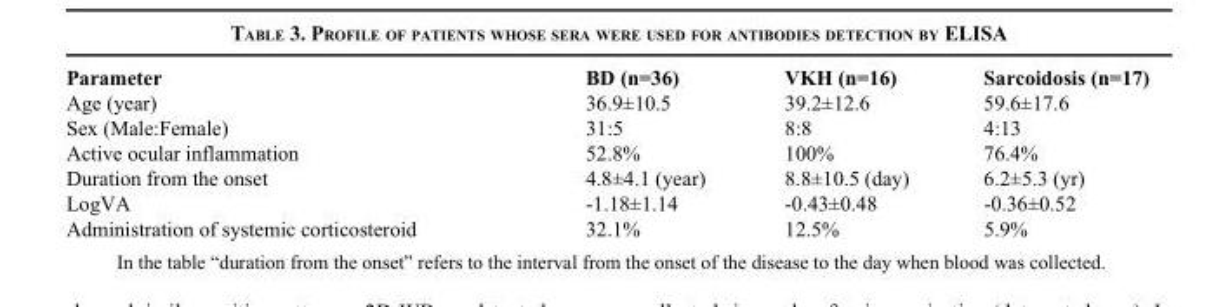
<table><tbody><tr><td>Parameter</td><td>BD (n=36)</td><td>VKH (n=16)</td><td>Sarcoidosis (n=17)</td></tr><tr><td>Age (year)</td><td>36.9±10.5</td><td>39.2±12.6</td><td>59.6±17.6</td></tr><tr><td>Sex (Male:Female)</td><td>31:5</td><td>8:8</td><td>4:13</td></tr><tr><td>Active ocular inflammation</td><td>52.8%</td><td>100%</td><td>76.4%</td></tr><tr><td>Duration from the onset</td><td>4.8±4.1 (year)</td><td>8.8±10.5 (day)</td><td>6.2±5.3 (yr)</td></tr><tr><td>LogVA</td><td>-1.18±1.14</td><td>-0.43±0.48</td><td>-0.36±0.52</td></tr><tr><td>Administration of systemic corticosteroid</td><td>32.1%</td><td>12.5%</td><td>5.9%</td></tr></tbody></table>